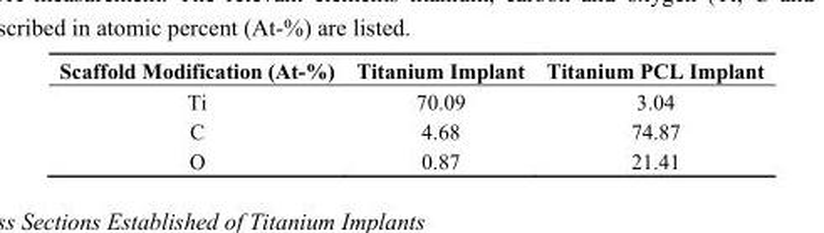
<table><thead><tr><td>Scaffold Modification (At-%)</td><td>Titanium Implant</td><td>Titanium PCL Implant</td></tr></thead><tbody><tr><td>Ti</td><td>70.09</td><td>3.04</td></tr><tr><td>C</td><td>4.68</td><td>74.87</td></tr><tr><td>O</td><td>0.87</td><td>21.41</td></tr></tbody></table>